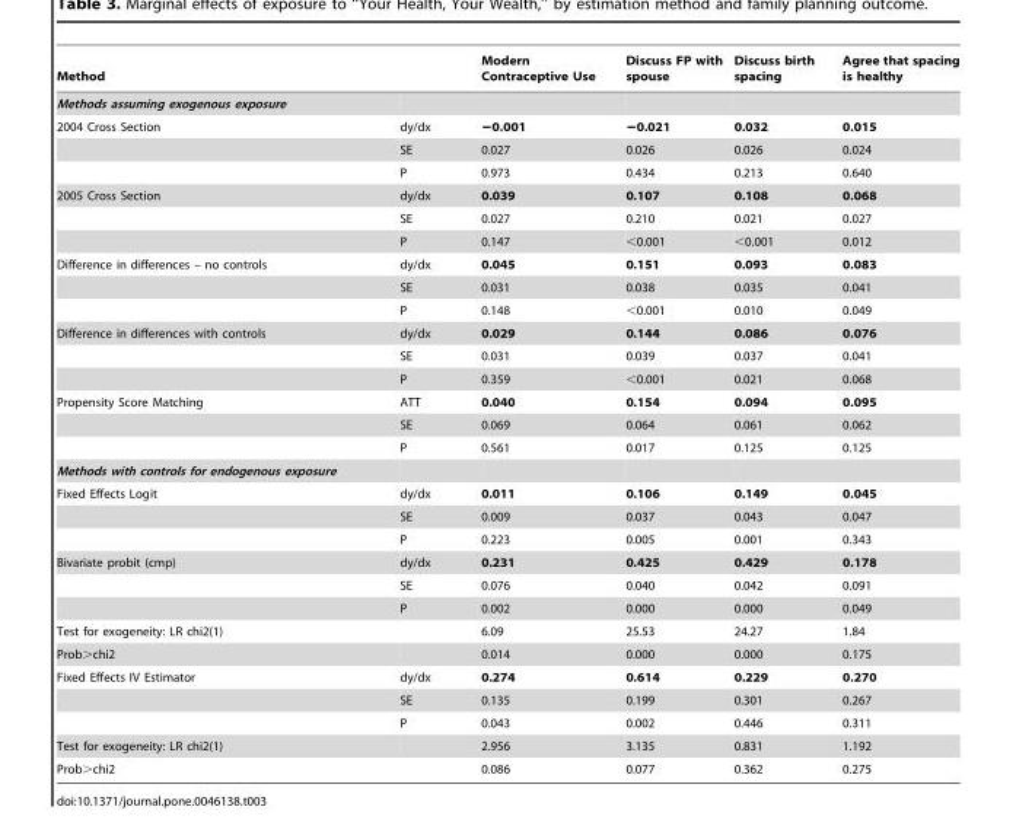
<table><thead><tr><td>Method</td><td></td><td>Modern Contraceptive Use</td><td>Discuss FP with spouse</td><td>Discuss birth spacing</td><td>Agree that spacing is healthy</td></tr></thead><tbody><tr><td colspan="6">Methods assuming exogenous exposure</td></tr><tr><td rowspan="3">2004 Cross Section</td><td>dy/dx</td><td>−0.001</td><td>−0.021</td><td>0.032</td><td>0.015</td></tr><tr><td>SE</td><td>0.027</td><td>0.026</td><td>0.026</td><td>0.024</td></tr><tr><td>P</td><td>0.973</td><td>0.434</td><td>0.213</td><td>0.640</td></tr><tr><td rowspan="3">2005 Cross Section</td><td>dy/dx</td><td>0.039</td><td>0.107</td><td>0.108</td><td>0.068</td></tr><tr><td>SE</td><td>0.027</td><td>0.210</td><td>0.021</td><td>0.027</td></tr><tr><td>P</td><td>0.147</td><td>&lt;0.001</td><td>&lt;0.001</td><td>0.012</td></tr><tr><td rowspan="3">Difference in differences – no controls</td><td>dy/dx</td><td>0.045</td><td>0.151</td><td>0.093</td><td>0.083</td></tr><tr><td>SE</td><td>0.031</td><td>0.038</td><td>0.035</td><td>0.041</td></tr><tr><td>P</td><td>0.148</td><td>&lt;0.001</td><td>0.010</td><td>0.049</td></tr><tr><td rowspan="3">Difference in differences with controls</td><td>dy/dx</td><td>0.029</td><td>0.144</td><td>0.086</td><td>0.076</td></tr><tr><td>SE</td><td>0.031</td><td>0.039</td><td>0.037</td><td>0.041</td></tr><tr><td>P</td><td>0.359</td><td>&lt;0.001</td><td>0.021</td><td>0.068</td></tr><tr><td rowspan="3">Propensity Score Matching</td><td>ATT</td><td>0.040</td><td>0.154</td><td>0.094</td><td>0.095</td></tr><tr><td>SE</td><td>0.069</td><td>0.064</td><td>0.061</td><td>0.062</td></tr><tr><td>P</td><td>0.561</td><td>0.017</td><td>0.125</td><td>0.125</td></tr><tr><td colspan="6">Methods with controls for endogenous exposure</td></tr><tr><td rowspan="3">Fixed Effects Logit</td><td>dy/dx</td><td>0.011</td><td>0.106</td><td>0.149</td><td>0.045</td></tr><tr><td>SE</td><td>0.009</td><td>0.037</td><td>0.043</td><td>0.047</td></tr><tr><td>P</td><td>0.223</td><td>0.005</td><td>0.001</td><td>0.343</td></tr><tr><td rowspan="3">Bivariate probit (cmp)</td><td>dy/dx</td><td>0.231</td><td>0.425</td><td>0.429</td><td>0.178</td></tr><tr><td>SE</td><td>0.076</td><td>0.040</td><td>0.042</td><td>0.091</td></tr><tr><td>P</td><td>0.002</td><td>0.000</td><td>0.000</td><td>0.049</td></tr><tr><td>Test for exogeneity: LR chi2(1)</td><td></td><td>6.09</td><td>25.53</td><td>24.27</td><td>1.84</td></tr><tr><td>Prob&gt;chi2</td><td></td><td>0.014</td><td>0.000</td><td>0.000</td><td>0.175</td></tr><tr><td rowspan="3">Fixed Effects IV Estimator</td><td>dy/dx</td><td>0.274</td><td>0.614</td><td>0.229</td><td>0.270</td></tr><tr><td>SE</td><td>0.135</td><td>0.199</td><td>0.301</td><td>0.267</td></tr><tr><td>P</td><td>0.043</td><td>0.002</td><td>0.446</td><td>0.311</td></tr><tr><td>Test for exogeneity: LR chi2(1)</td><td></td><td>2.956</td><td>3.135</td><td>0.831</td><td>1.192</td></tr><tr><td>Prob&gt;chi2</td><td></td><td>0.086</td><td>0.077</td><td>0.362</td><td>0.275</td></tr></tbody></table>